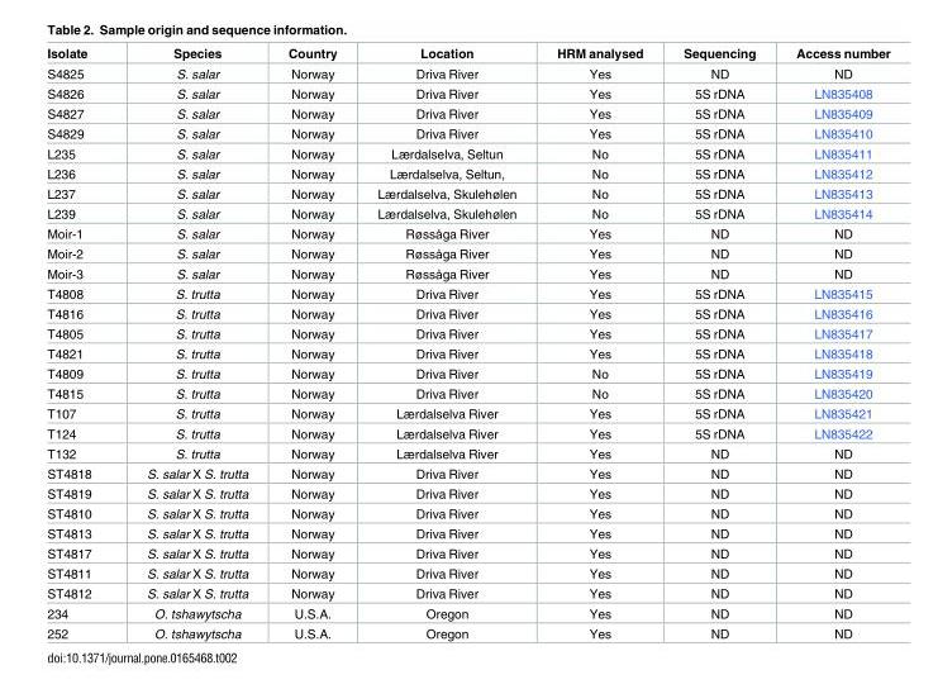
<table><thead><tr><td>Isolate</td><td>Species</td><td>Country</td><td>Location</td><td>HRM analysed</td><td>Sequencing</td><td>Access number</td></tr></thead><tbody><tr><td>S4825</td><td>S. salar</td><td>Norway</td><td>Driva River</td><td>Yes</td><td>ND</td><td>ND</td></tr><tr><td>S4826</td><td>S. salar</td><td>Norway</td><td>Driva River</td><td>Yes</td><td>5S rDNA</td><td>LN835408</td></tr><tr><td>S4827</td><td>S. salar</td><td>Norway</td><td>Driva River</td><td>Yes</td><td>5S rDNA</td><td>LN835409</td></tr><tr><td>S4829</td><td>S. salar</td><td>Norway</td><td>Driva River</td><td>Yes</td><td>5S rDNA</td><td>LN835410</td></tr><tr><td>L235</td><td>S. salar</td><td>Norway</td><td>Lærdalselva, Seltun</td><td>No</td><td>5S rDNA</td><td>LN835411</td></tr><tr><td>L236</td><td>S. salar</td><td>Norway</td><td>Lærdalselva, Seltun,</td><td>No</td><td>5S rDNA</td><td>LN835412</td></tr><tr><td>L237</td><td>S. salar</td><td>Norway</td><td>Lærdalselva, Skulehølen</td><td>No</td><td>5S rDNA</td><td>LN835413</td></tr><tr><td>L239</td><td>S. salar</td><td>Norway</td><td>Lærdalselva, Skulehølen</td><td>No</td><td>5S rDNA</td><td>LN835414</td></tr><tr><td>Moir-1</td><td>S. salar</td><td>Norway</td><td>Røssåga River</td><td>Yes</td><td>ND</td><td>ND</td></tr><tr><td>Moir-2</td><td>S. salar</td><td>Norway</td><td>Røssåga River</td><td>Yes</td><td>ND</td><td>ND</td></tr><tr><td>Moir-3</td><td>S. salar</td><td>Norway</td><td>Røssåga River</td><td>Yes</td><td>ND</td><td>ND</td></tr><tr><td>T4808</td><td>S. trutta</td><td>Norway</td><td>Driva River</td><td>Yes</td><td>5S rDNA</td><td>LN835415</td></tr><tr><td>T4816</td><td>S. trutta</td><td>Norway</td><td>Driva River</td><td>Yes</td><td>5S rDNA</td><td>LN835416</td></tr><tr><td>T4805</td><td>S. trutta</td><td>Norway</td><td>Driva River</td><td>Yes</td><td>5S rDNA</td><td>LN835417</td></tr><tr><td>T4821</td><td>S. trutta</td><td>Norway</td><td>Driva River</td><td>Yes</td><td>5S rDNA</td><td>LN835418</td></tr><tr><td>T4809</td><td>S. trutta</td><td>Norway</td><td>Driva River</td><td>No</td><td>5S rDNA</td><td>LN835419</td></tr><tr><td>T4815</td><td>S. trutta</td><td>Norway</td><td>Driva River</td><td>No</td><td>5S rDNA</td><td>LN835420</td></tr><tr><td>T107</td><td>S. trutta</td><td>Norway</td><td>Lærdalselva River</td><td>Yes</td><td>5S rDNA</td><td>LN835421</td></tr><tr><td>T124</td><td>S. trutta</td><td>Norway</td><td>Lærdalselva River</td><td>Yes</td><td>5S rDNA</td><td>LN835422</td></tr><tr><td>T132</td><td>S. trutta</td><td>Norway</td><td>Lærdalselva River</td><td>Yes</td><td>ND</td><td>ND</td></tr><tr><td>ST4818</td><td>S. salar X S. trutta</td><td>Norway</td><td>Driva River</td><td>Yes</td><td>ND</td><td>ND</td></tr><tr><td>ST4819</td><td>S. salar X S. trutta</td><td>Norway</td><td>Driva River</td><td>Yes</td><td>ND</td><td>ND</td></tr><tr><td>ST4810</td><td>S. salar X S. trutta</td><td>Norway</td><td>Driva River</td><td>Yes</td><td>ND</td><td>ND</td></tr><tr><td>ST4813</td><td>S. salar X S. trutta</td><td>Norway</td><td>Driva River</td><td>Yes</td><td>ND</td><td>ND</td></tr><tr><td>ST4817</td><td>S. salar X S. trutta</td><td>Norway</td><td>Driva River</td><td>Yes</td><td>ND</td><td>ND</td></tr><tr><td>ST4811</td><td>S. salar X S. trutta</td><td>Norway</td><td>Driva River</td><td>Yes</td><td>ND</td><td>ND</td></tr><tr><td>ST4812</td><td>S. salar X S. trutta</td><td>Norway</td><td>Driva River</td><td>Yes</td><td>ND</td><td>ND</td></tr><tr><td>234</td><td>O. tshawytscha</td><td>U.S.A.</td><td>Oregon</td><td>Yes</td><td>ND</td><td>ND</td></tr><tr><td>252</td><td>O. tshawytscha</td><td>U.S.A.</td><td>Oregon</td><td>Yes</td><td>ND</td><td>ND</td></tr></tbody></table>